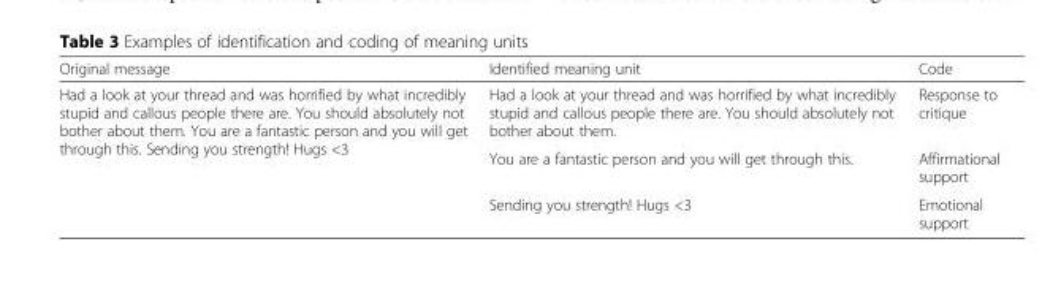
<table><thead><tr><td>Original message</td><td>Identified meaning unit</td><td>Code</td></tr></thead><tbody><tr><td rowspan="3">Had a look at your thread and was horrified by what incredibly stupid and callous people there are. You should absolutely not bother about them. You are a fantastic person and you will get through this. Sending you strength! Hugs &lt;3</td><td>Had a look at your thread and was horrified by what incredibly stupid and callous people there are. You should absolutely not bother about them.</td><td>Response to critique</td></tr><tr><td>You are a fantastic person and you will get through this.</td><td>Affirmational support</td></tr><tr><td>Sending you strength! Hugs &lt;3</td><td>Emotional support</td></tr></tbody></table>